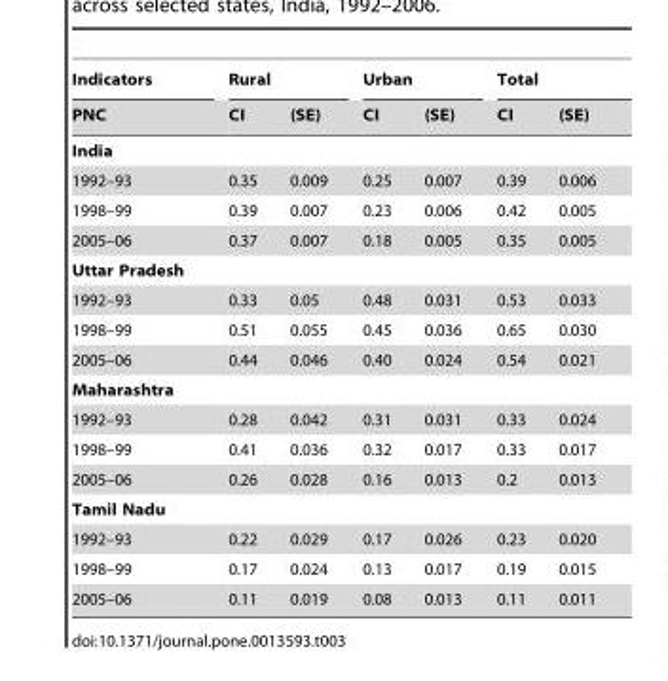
<table><thead><tr><td rowspan="2">Indicators PNC</td><td colspan="2">Rural</td><td colspan="2">Urban</td><td colspan="2">Total</td></tr><tr><td>CI</td><td>(SE)</td><td>CI</td><td>(SE)</td><td>CI</td><td>(SE)</td></tr></thead><tbody><tr><td colspan="7">India</td></tr><tr><td>1992–93</td><td>0.35</td><td>0.009</td><td>0.25</td><td>0.007</td><td>0.39</td><td>0.006</td></tr><tr><td>1998–99</td><td>0.39</td><td>0.007</td><td>0.23</td><td>0.006</td><td>0.42</td><td>0.005</td></tr><tr><td>2005–06</td><td>0.37</td><td>0.007</td><td>0.18</td><td>0.005</td><td>0.35</td><td>0.005</td></tr><tr><td colspan="7">Uttar Pradesh</td></tr><tr><td>1992–93</td><td>0.33</td><td>0.05</td><td>0.48</td><td>0.031</td><td>0.53</td><td>0.033</td></tr><tr><td>1998–99</td><td>0.51</td><td>0.055</td><td>0.45</td><td>0.036</td><td>0.65</td><td>0.030</td></tr><tr><td>2005–06</td><td>0.44</td><td>0.046</td><td>0.40</td><td>0.024</td><td>0.54</td><td>0.021</td></tr><tr><td colspan="7">Maharashtra</td></tr><tr><td>1992–93</td><td>0.28</td><td>0.042</td><td>0.31</td><td>0.031</td><td>0.33</td><td>0.024</td></tr><tr><td>1998–99</td><td>0.41</td><td>0.036</td><td>0.32</td><td>0.017</td><td>0.33</td><td>0.017</td></tr><tr><td>2005–06</td><td>0.26</td><td>0.028</td><td>0.16</td><td>0.013</td><td>0.2</td><td>0.013</td></tr><tr><td colspan="7">Tamil Nadu</td></tr><tr><td>1992–93</td><td>0.22</td><td>0.029</td><td>0.17</td><td>0.026</td><td>0.23</td><td>0.020</td></tr><tr><td>1998–99</td><td>0.17</td><td>0.024</td><td>0.13</td><td>0.017</td><td>0.19</td><td>0.015</td></tr><tr><td>2005–06</td><td>0.11</td><td>0.019</td><td>0.08</td><td>0.013</td><td>0.11</td><td>0.011</td></tr></tbody></table>